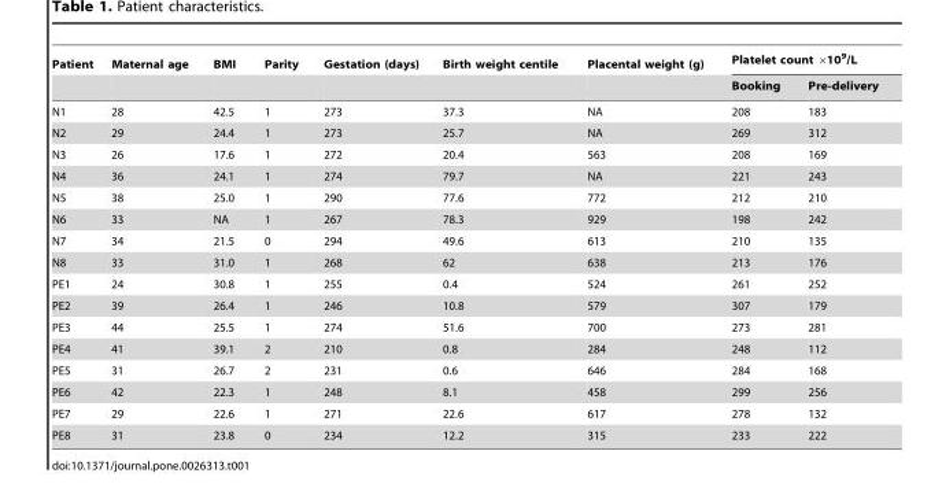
<table><thead><tr><td rowspan="2">Patient</td><td rowspan="2">Maternal age</td><td rowspan="2">BMI</td><td rowspan="2">Parity</td><td rowspan="2">Gestation (days)</td><td rowspan="2">Birth weight centile</td><td rowspan="2">Placental weight (g)</td><td colspan="2">Platelet count ×10<sup>9</sup>/L</td></tr><tr><td>Booking</td><td>Pre-delivery</td></tr></thead><tbody><tr><td>N1</td><td>28</td><td>42.5</td><td>1</td><td>273</td><td>37.3</td><td>NA</td><td>208</td><td>183</td></tr><tr><td>N2</td><td>29</td><td>24.4</td><td>1</td><td>273</td><td>25.7</td><td>NA</td><td>269</td><td>312</td></tr><tr><td>N3</td><td>26</td><td>17.6</td><td>1</td><td>272</td><td>20.4</td><td>563</td><td>208</td><td>169</td></tr><tr><td>N4</td><td>36</td><td>24.1</td><td>1</td><td>274</td><td>79.7</td><td>NA</td><td>221</td><td>243</td></tr><tr><td>N5</td><td>38</td><td>25.0</td><td>1</td><td>290</td><td>77.6</td><td>772</td><td>212</td><td>210</td></tr><tr><td>N6</td><td>33</td><td>NA</td><td>1</td><td>267</td><td>78.3</td><td>929</td><td>198</td><td>242</td></tr><tr><td>N7</td><td>34</td><td>21.5</td><td>0</td><td>294</td><td>49.6</td><td>613</td><td>210</td><td>135</td></tr><tr><td>N8</td><td>33</td><td>31.0</td><td>1</td><td>268</td><td>62</td><td>638</td><td>213</td><td>176</td></tr><tr><td>PE1</td><td>24</td><td>30.8</td><td>1</td><td>255</td><td>0.4</td><td>524</td><td>261</td><td>252</td></tr><tr><td>PE2</td><td>39</td><td>26.4</td><td>1</td><td>246</td><td>10.8</td><td>579</td><td>307</td><td>179</td></tr><tr><td>PE3</td><td>44</td><td>25.5</td><td>1</td><td>274</td><td>51.6</td><td>700</td><td>273</td><td>281</td></tr><tr><td>PE4</td><td>41</td><td>39.1</td><td>2</td><td>210</td><td>0.8</td><td>284</td><td>248</td><td>112</td></tr><tr><td>PE5</td><td>31</td><td>26.7</td><td>2</td><td>231</td><td>0.6</td><td>646</td><td>284</td><td>168</td></tr><tr><td>PE6</td><td>42</td><td>22.3</td><td>1</td><td>248</td><td>8.1</td><td>458</td><td>299</td><td>256</td></tr><tr><td>PE7</td><td>29</td><td>22.6</td><td>1</td><td>271</td><td>22.6</td><td>617</td><td>278</td><td>132</td></tr><tr><td>PE8</td><td>31</td><td>23.8</td><td>0</td><td>234</td><td>12.2</td><td>315</td><td>233</td><td>222</td></tr></tbody></table>